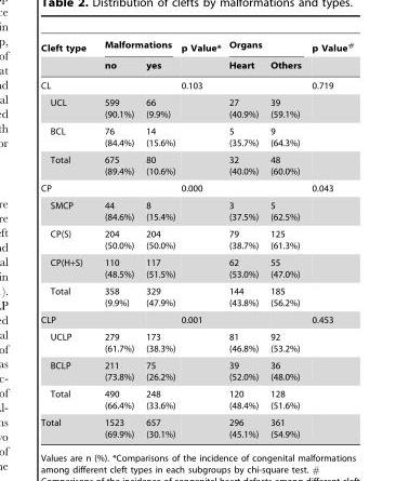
<table><thead><tr><td rowspan="2">Cleft type</td><td colspan="2">Malformations</td><td rowspan="2">p Value*</td><td colspan="2">Organs</td><td rowspan="2">p Value<sup>#</sup></td></tr><tr><td>no</td><td>yes</td><td>Heart</td><td>Others</td></tr></thead><tbody><tr><td>CL</td><td></td><td></td><td>0.103</td><td></td><td></td><td>0.719</td></tr><tr><td>UCL</td><td>599 (90.1%)</td><td>66 (9.9%)</td><td></td><td>27 (40.9%)</td><td>39 (59.1%)</td><td></td></tr><tr><td>BCL</td><td>76 (84.4%)</td><td>14 (15.6%)</td><td></td><td>5 (35.7%)</td><td>9 (64.3%)</td><td></td></tr><tr><td>Total</td><td>675 (89.4%)</td><td>80 (10.6%)</td><td></td><td>32 (40.0%)</td><td>48 (60.0%)</td><td></td></tr><tr><td>CP</td><td></td><td></td><td>0.000</td><td></td><td></td><td>0.043</td></tr><tr><td>SMCP</td><td>44 (84.6%)</td><td>8 (15.4%)</td><td></td><td>3 (37.5%)</td><td>5 (62.5%)</td><td></td></tr><tr><td>CP(S)</td><td>204 (50.0%)</td><td>204 (50.0%)</td><td></td><td>79 (38.7%)</td><td>125 (61.3%)</td><td></td></tr><tr><td>CP(H+S)</td><td>110 (48.5%)</td><td>117 (51.5%)</td><td></td><td>62 (53.0%)</td><td>55 (47.0%)</td><td></td></tr><tr><td>Total</td><td>358 (9.9%)</td><td>329 (47.9%)</td><td></td><td>144 (43.8%)</td><td>185 (56.2%)</td><td></td></tr><tr><td>CLP</td><td></td><td></td><td>0.001</td><td></td><td></td><td>0.453</td></tr><tr><td>UCLP</td><td>279 (61.7%)</td><td>173 (38.3%)</td><td></td><td>81 (46.8%)</td><td>92 (53.2%)</td><td></td></tr><tr><td>BCLP</td><td>211 (73.8%)</td><td>75 (26.2%)</td><td></td><td>39 (52.0%)</td><td>36 (48.0%)</td><td></td></tr><tr><td>Total</td><td>490 (66.4%)</td><td>248 (33.6%)</td><td></td><td>120 (48.4%)</td><td>128 (51.6%)</td><td></td></tr><tr><td>Total</td><td>1523 (69.9%)</td><td>657 (30.1%)</td><td></td><td>296 (45.1%)</td><td>361 (54.9%)</td><td></td></tr></tbody></table>